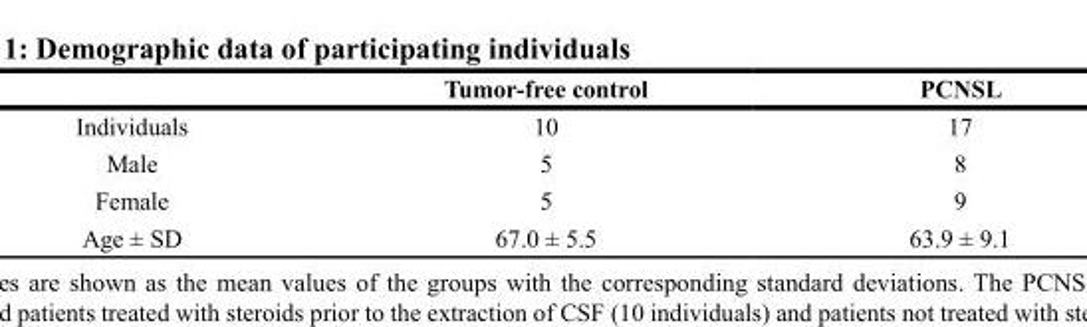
<table><thead><tr><td></td><td>Tumor-free control</td><td>PCNSL</td></tr></thead><tbody><tr><td>Individuals</td><td>10</td><td>17</td></tr><tr><td>Male</td><td>5</td><td>8</td></tr><tr><td>Female</td><td>5</td><td>9</td></tr><tr><td>Age ± SD</td><td>67.0 ± 5.5</td><td>63.9 ± 9.1</td></tr></tbody></table>